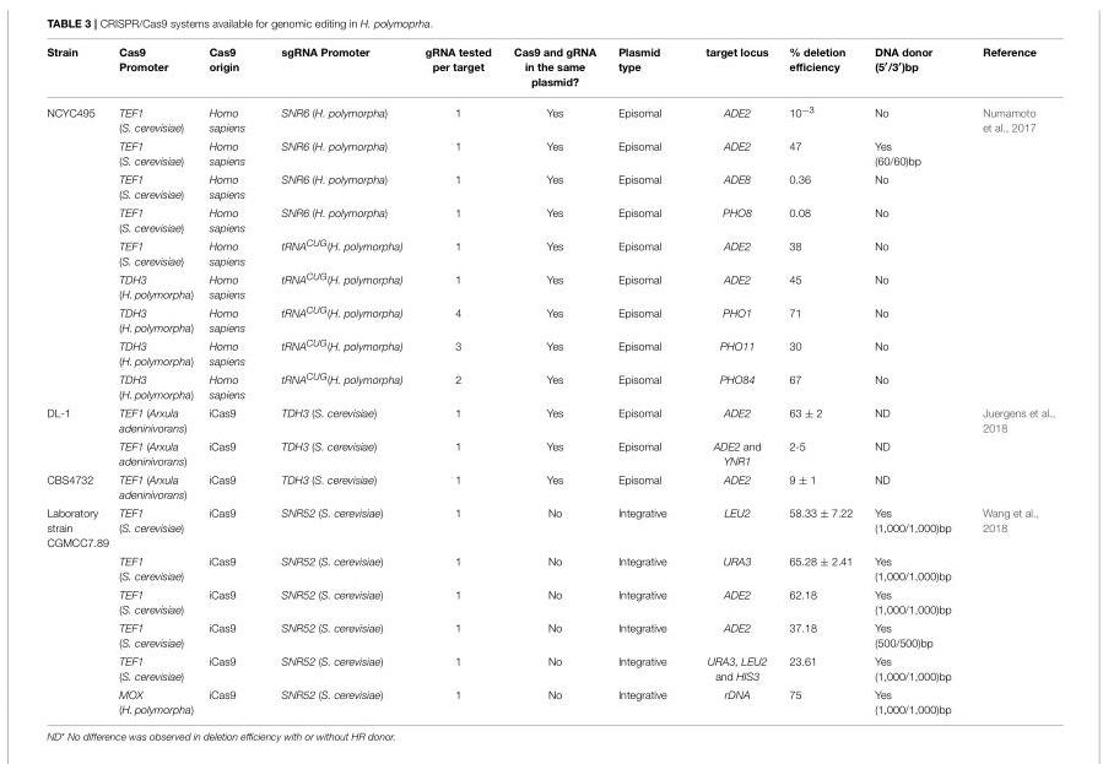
<table><thead><tr><td>Strain</td><td>Cas9 Promoter</td><td>Cas9 origin</td><td>sgRNA Promoter</td><td>gRNA tested per target</td><td>Cas9 and gRNA in the same plasmid?</td><td>Plasmid type</td><td>target locus</td><td>% deletion efficiency</td><td>DNA donor (5<sup>′</sup>/3<sup>′</sup>)bp</td><td>Reference</td></tr></thead><tbody><tr><td rowspan="9">NCYC495</td><td>TEF1 (S. cerevisiae)</td><td>Homo sapiens</td><td>SNR6 (H. polymorpha)</td><td>1</td><td>Yes</td><td>Episomal</td><td>ADE2</td><td>10<sup>−3</sup></td><td>No</td><td>Numamoto et al., 2017</td></tr><tr><td>TEF1 (S. cerevisiae)</td><td>Homo sapiens</td><td>SNR6 (H. polymorpha)</td><td>1</td><td>Yes</td><td>Episomal</td><td>ADE2</td><td>47</td><td>Yes (60/60)bp</td><td></td></tr><tr><td>TEF1 (S. cerevisiae)</td><td>Homo sapiens</td><td>SNR6 (H. polymorpha)</td><td>1</td><td>Yes</td><td>Episomal</td><td>ADE8</td><td>0.36</td><td>No</td><td></td></tr><tr><td>TEF1 (S. cerevisiae)</td><td>Homo sapiens</td><td>SNR6 (H. polymorpha)</td><td>1</td><td>Yes</td><td>Episomal</td><td>PHO8</td><td>0.08</td><td>No</td><td></td></tr><tr><td>TEF1 (S. cerevisiae)</td><td>Homo sapiens</td><td>tRNACUG(H. polymorpha)</td><td>1</td><td>Yes</td><td>Episomal</td><td>ADE2</td><td>38</td><td>No</td><td></td></tr><tr><td>TDH3 (H. polymorpha)</td><td>Homo sapiens</td><td>tRNACUG(H. polymorpha)</td><td>1</td><td>Yes</td><td>Episomal</td><td>ADE2</td><td>45</td><td>No</td><td></td></tr><tr><td>TDH3 (H. polymorpha)</td><td>Homo sapiens</td><td>tRNACUG(H. polymorpha)</td><td>4</td><td>Yes</td><td>Episomal</td><td>PHO1</td><td>71</td><td>No</td><td></td></tr><tr><td>TDH3 (H. polymorpha)</td><td>Homo sapiens</td><td>tRNACUG(H. polymorpha)</td><td>3</td><td>Yes</td><td>Episomal</td><td>PHO11</td><td>30</td><td>No</td><td></td></tr><tr><td>TDH3 (H. polymorpha)</td><td>Homo sapiens</td><td>tRNACUG(H. polymorpha)</td><td>2</td><td>Yes</td><td>Episomal</td><td>PHO84</td><td>67</td><td>No</td><td></td></tr><tr><td rowspan="2">DL-1</td><td>TEF1 (Arxula adeninivorans)</td><td>iCas9</td><td>TDH3 (S. cerevisiae)</td><td>1</td><td>Yes</td><td>Episomal</td><td>ADE2</td><td>63 ± 2</td><td>ND</td><td>Juergens et al., 2018</td></tr><tr><td>TEF1 (Arxula adeninivorans)</td><td>iCas9</td><td>TDH3 (S. cerevisiae)</td><td>1</td><td>Yes</td><td>Episomal</td><td>ADE2 and YNR1</td><td>2-5</td><td>ND</td><td></td></tr><tr><td>CBS4732</td><td>TEF1 (Arxula adeninivorans)</td><td>iCas9</td><td>TDH3 (S. cerevisiae)</td><td>1</td><td>Yes</td><td>Episomal</td><td>ADE2</td><td>9 ± 1</td><td>ND</td><td></td></tr><tr><td rowspan="6">Laboratory strain CGMCC7.89</td><td>TEF1 (S. cerevisiae)</td><td>iCas9</td><td>SNR52 (S. cerevisiae)</td><td>1</td><td>No</td><td>Integrative</td><td>LEU2</td><td>58.33 ± 7.22</td><td>Yes (1,000/1,000)bp</td><td>Wang et al., 2018</td></tr><tr><td>TEF1 (S. cerevisiae)</td><td>iCas9</td><td>SNR52 (S. cerevisiae)</td><td>1</td><td>No</td><td>Integrative</td><td>URA3</td><td>65.28 ± 2.41</td><td>Yes (1,000/1,000)bp</td><td></td></tr><tr><td>TEF1 (S. cerevisiae)</td><td>iCas9</td><td>SNR52 (S. cerevisiae)</td><td>1</td><td>No</td><td>Integrative</td><td>ADE2</td><td>62.18</td><td>Yes (1,000/1,000)bp</td><td></td></tr><tr><td>TEF1 (S. cerevisiae)</td><td>iCas9</td><td>SNR52 (S. cerevisiae)</td><td>1</td><td>No</td><td>Integrative</td><td>ADE2</td><td>37.18</td><td>Yes (500/500)bp</td><td></td></tr><tr><td>TEF1 (S. cerevisiae)</td><td>iCas9</td><td>SNR52 (S. cerevisiae)</td><td>1</td><td>No</td><td>Integrative</td><td>URA3, LEU2 and HIS3</td><td>23.61</td><td>Yes (1,000/1,000)bp</td><td></td></tr><tr><td>MOX (H. polymorpha)</td><td>iCas9</td><td>SNR52 (S. cerevisiae)</td><td>1</td><td>No</td><td>Integrative</td><td>rDNA</td><td>75</td><td>Yes (1,000/1,000)bp</td><td></td></tr></tbody></table>